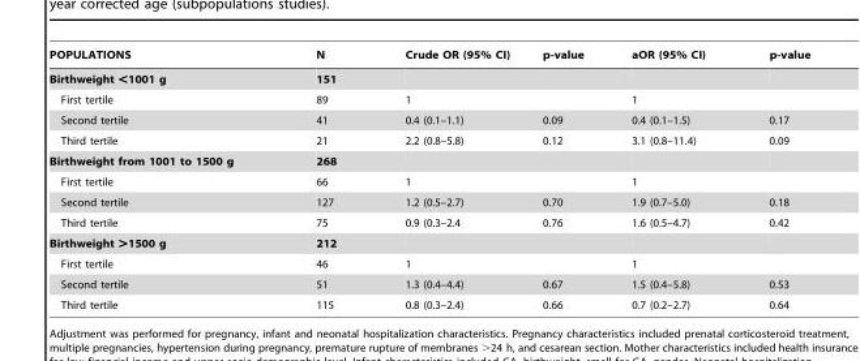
<table><thead><tr><td>POPULATIONS</td><td>N</td><td>Crude OR (95% CI)</td><td>p-value</td><td>aOR (95% CI)</td><td>p-value</td></tr></thead><tbody><tr><td>Birthweight &lt;1001 g</td><td>151</td><td></td><td></td><td></td><td></td></tr><tr><td>First tertile</td><td>89</td><td>1</td><td></td><td>1</td><td></td></tr><tr><td>Second tertile</td><td>41</td><td>0.4 (0.1–1.1)</td><td>0.09</td><td>0.4 (0.1–1.5)</td><td>0.17</td></tr><tr><td>Third tertile</td><td>21</td><td>2.2 (0.8–5.8)</td><td>0.12</td><td>3.1 (0.8–11.4)</td><td>0.09</td></tr><tr><td>Birthweight from 1001 to 1500 g</td><td>268</td><td></td><td></td><td></td><td></td></tr><tr><td>First tertile</td><td>66</td><td>1</td><td></td><td>1</td><td></td></tr><tr><td>Second tertile</td><td>127</td><td>1.2 (0.5–2.7)</td><td>0.70</td><td>1.9 (0.7–5.0)</td><td>0.18</td></tr><tr><td>Third tertile</td><td>75</td><td>0.9 (0.3–2.4</td><td>0.76</td><td>1.6 (0.5–4.7)</td><td>0.42</td></tr><tr><td>Birthweight &gt;1500 g</td><td>212</td><td></td><td></td><td></td><td></td></tr><tr><td>First tertile</td><td>46</td><td>1</td><td></td><td>1</td><td></td></tr><tr><td>Second tertile</td><td>51</td><td>1.3 (0.4–4.4)</td><td>0.67</td><td>1.5 (0.4–5.8)</td><td>0.53</td></tr><tr><td>Third tertile</td><td>115</td><td>0.8 (0.3–2.4)</td><td>0.66</td><td>0.7 (0.2–2.7)</td><td>0.64</td></tr></tbody></table>